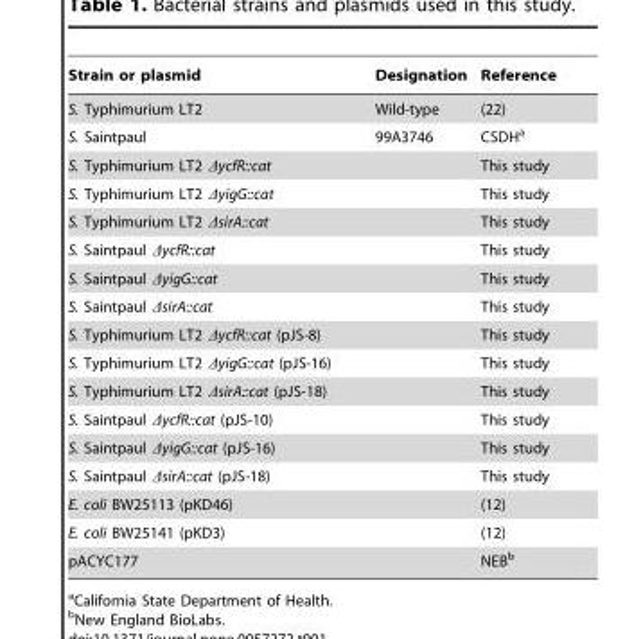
<table><thead><tr><td>Strain or plasmid</td><td>Designation</td><td>Reference</td></tr></thead><tbody><tr><td>S. Typhimurium LT2</td><td>Wild-type</td><td>(22)</td></tr><tr><td>S. Saintpaul</td><td>99A3746</td><td>CSDH<sup>a</sup></td></tr><tr><td>S. Typhimurium LT2 ΔycfR::cat</td><td></td><td>This study</td></tr><tr><td>S. Typhimurium LT2 ΔyigG::cat</td><td></td><td>This study</td></tr><tr><td>S. Typhimurium LT2 ΔsirA::cat</td><td></td><td>This study</td></tr><tr><td>S. Saintpaul ΔycfR::cat</td><td></td><td>This study</td></tr><tr><td>S. Saintpaul ΔyigG::cat</td><td></td><td>This study</td></tr><tr><td>S. Saintpaul ΔsirA::cat</td><td></td><td>This study</td></tr><tr><td>S. Typhimurium LT2 ΔycfR::cat (pJS-8)</td><td></td><td>This study</td></tr><tr><td>S. Typhimurium LT2 ΔyigG::cat (pJS-16)</td><td></td><td>This study</td></tr><tr><td>S. Typhimurium LT2 ΔsirA::cat (pJS-18)</td><td></td><td>This study</td></tr><tr><td>S. Saintpaul ΔycfR::cat (pJS-10)</td><td></td><td>This study</td></tr><tr><td>S. Saintpaul ΔyigG::cat (pJS-16)</td><td></td><td>This study</td></tr><tr><td>S. Saintpaul ΔsirA::cat (pJS-18)</td><td></td><td>This study</td></tr><tr><td>E. coli BW25113 (pKD46)</td><td></td><td>(12)</td></tr><tr><td>E. coli BW25141 (pKD3)</td><td></td><td>(12)</td></tr><tr><td>pACYC177</td><td></td><td>NEB<sup>b</sup></td></tr></tbody></table>